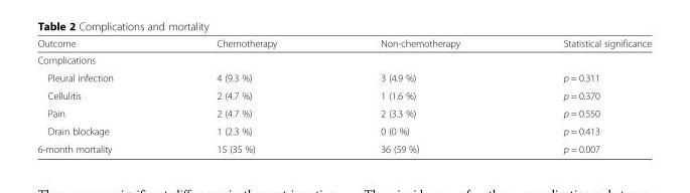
<table><thead><tr><td>Outcome</td><td>Chemotherapy</td><td>Non-chemotherapy</td><td>Statistical significance</td></tr></thead><tbody><tr><td colspan="4">Complications</td></tr><tr><td>Pleural infection</td><td>4 (9.3 %)</td><td>3 (4.9 %)</td><td>p = 0.311</td></tr><tr><td>Cellulitis</td><td>2 (4.7 %)</td><td>1 (1.6 %)</td><td>p = 0.370</td></tr><tr><td>Pain</td><td>2 (4.7 %)</td><td>2 (3.3 %)</td><td>p = 0.550</td></tr><tr><td>Drain blockage</td><td>1 (2.3 %)</td><td>0 (0 %)</td><td>p = 0.413</td></tr><tr><td>6-month mortality</td><td>15 (35 %)</td><td>36 (59 %)</td><td>p = 0.007</td></tr></tbody></table>